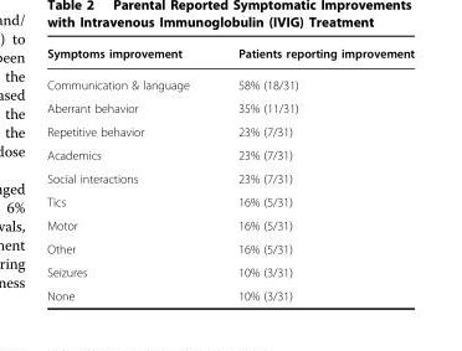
<table><thead><tr><td>Symptoms improvement</td><td>Patients reporting improvement</td></tr></thead><tbody><tr><td>Communication &amp; language</td><td>58% (18/31)</td></tr><tr><td>Aberrant behavior</td><td>35% (11/31)</td></tr><tr><td>Repetitive behavior</td><td>23% (7/31)</td></tr><tr><td>Academics</td><td>23% (7/31)</td></tr><tr><td>Social interactions</td><td>23% (7/31)</td></tr><tr><td>Tics</td><td>16% (5/31)</td></tr><tr><td>Motor</td><td>16% (5/31)</td></tr><tr><td>Other</td><td>16% (5/31)</td></tr><tr><td>Seizures</td><td>10% (3/31)</td></tr><tr><td>None</td><td>10% (3/31)</td></tr></tbody></table>